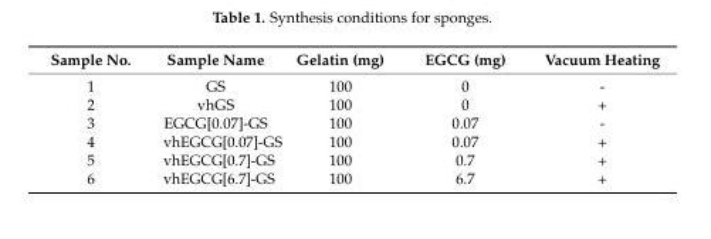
<table><thead><tr><td>Sample No.</td><td>Sample Name</td><td>Gelatin (mg)</td><td>EGCG (mg)</td><td>Vacuum Heating</td></tr></thead><tbody><tr><td>1</td><td>GS</td><td>100</td><td>0</td><td>-</td></tr><tr><td>2</td><td>vhGS</td><td>100</td><td>0</td><td>+</td></tr><tr><td>3</td><td>EGCG[0.07]-GS</td><td>100</td><td>0.07</td><td>-</td></tr><tr><td>4</td><td>vhEGCG[0.07]-GS</td><td>100</td><td>0.07</td><td>+</td></tr><tr><td>5</td><td>vhEGCG[0.7]-GS</td><td>100</td><td>0.7</td><td>+</td></tr><tr><td>6</td><td>vhEGCG[6.7]-GS</td><td>100</td><td>6.7</td><td>+</td></tr></tbody></table>